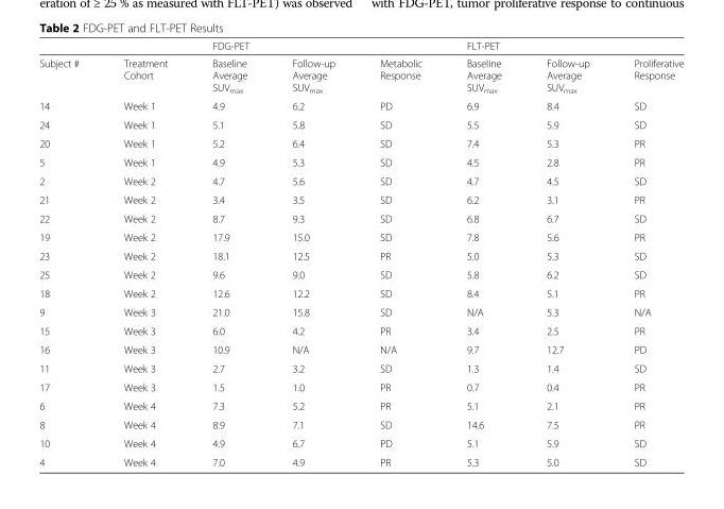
<table><thead><tr><td rowspan="2">Subject #</td><td rowspan="2">Treatment Cohort</td><td colspan="3">FDG-PET</td><td colspan="3">FLT-PET</td></tr><tr><td>Baseline Average SUV<sub>max</sub></td><td>Follow-up Average SUV<sub>max</sub></td><td>Metabolic Response</td><td>Baseline Average SUV<sub>max</sub></td><td>Follow-up Average SUV<sub>max</sub></td><td>Proliferative Response</td></tr></thead><tbody><tr><td>14</td><td>Week 1</td><td>4.9</td><td>6.2</td><td>PD</td><td>6.9</td><td>8.4</td><td>SD</td></tr><tr><td>24</td><td>Week 1</td><td>5.1</td><td>5.8</td><td>SD</td><td>5.5</td><td>5.9</td><td>SD</td></tr><tr><td>20</td><td>Week 1</td><td>5.2</td><td>6.4</td><td>SD</td><td>7.4</td><td>5.3</td><td>PR</td></tr><tr><td>5</td><td>Week 1</td><td>4.9</td><td>5.3</td><td>SD</td><td>4.5</td><td>2.8</td><td>PR</td></tr><tr><td>2</td><td>Week 2</td><td>4.7</td><td>5.6</td><td>SD</td><td>4.7</td><td>4.5</td><td>SD</td></tr><tr><td>21</td><td>Week 2</td><td>3.4</td><td>3.5</td><td>SD</td><td>6.2</td><td>3.1</td><td>PR</td></tr><tr><td>22</td><td>Week 2</td><td>8.7</td><td>9.3</td><td>SD</td><td>6.8</td><td>6.7</td><td>SD</td></tr><tr><td>19</td><td>Week 2</td><td>17.9</td><td>15.0</td><td>SD</td><td>7.8</td><td>5.6</td><td>PR</td></tr><tr><td>23</td><td>Week 2</td><td>18.1</td><td>12.5</td><td>PR</td><td>5.0</td><td>5.3</td><td>SD</td></tr><tr><td>25</td><td>Week 2</td><td>9.6</td><td>9.0</td><td>SD</td><td>5.8</td><td>6.2</td><td>SD</td></tr><tr><td>18</td><td>Week 2</td><td>12.6</td><td>12.2</td><td>SD</td><td>8.4</td><td>5.1</td><td>PR</td></tr><tr><td>9</td><td>Week 3</td><td>21.0</td><td>15.8</td><td>SD</td><td>N/A</td><td>5.3</td><td>N/A</td></tr><tr><td>15</td><td>Week 3</td><td>6.0</td><td>4.2</td><td>PR</td><td>3.4</td><td>2.5</td><td>PR</td></tr><tr><td>16</td><td>Week 3</td><td>10.9</td><td>N/A</td><td>N/A</td><td>9.7</td><td>12.7</td><td>PD</td></tr><tr><td>11</td><td>Week 3</td><td>2.7</td><td>3.2</td><td>SD</td><td>1.3</td><td>1.4</td><td>SD</td></tr><tr><td>17</td><td>Week 3</td><td>1.5</td><td>1.0</td><td>PR</td><td>0.7</td><td>0.4</td><td>PR</td></tr><tr><td>6</td><td>Week 4</td><td>7.3</td><td>5.2</td><td>PR</td><td>5.1</td><td>2.1</td><td>PR</td></tr><tr><td>8</td><td>Week 4</td><td>8.9</td><td>7.1</td><td>SD</td><td>14.6</td><td>7.5</td><td>PR</td></tr><tr><td>10</td><td>Week 4</td><td>4.9</td><td>6.7</td><td>PD</td><td>5.1</td><td>5.9</td><td>SD</td></tr><tr><td>4</td><td>Week 4</td><td>7.0</td><td>4.9</td><td>PR</td><td>5.3</td><td>5.0</td><td>SD</td></tr></tbody></table>